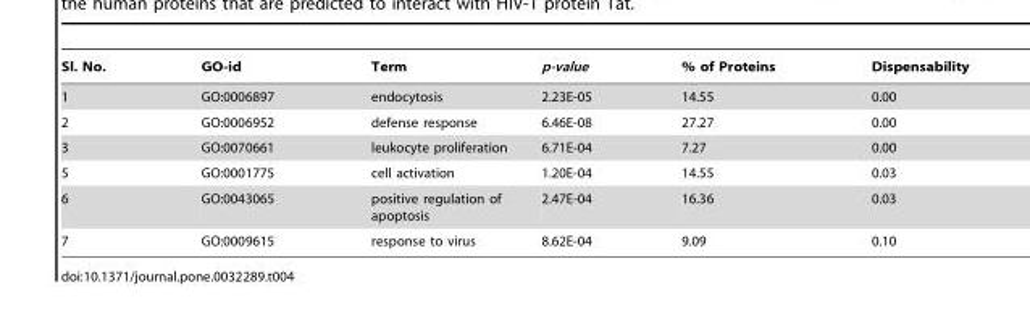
<table><thead><tr><td>Sl. No.</td><td>GO-id</td><td>Term</td><td>p-value</td><td>% of Proteins</td><td>Dispensability</td></tr></thead><tbody><tr><td>1</td><td>GO:0006897</td><td>endocytosis</td><td>2.23E-05</td><td>14.55</td><td>0.00</td></tr><tr><td>2</td><td>GO:0006952</td><td>defense response</td><td>6.46E-08</td><td>27.27</td><td>0.00</td></tr><tr><td>3</td><td>GO:0070661</td><td>leukocyte proliferation</td><td>6.71E-04</td><td>7.27</td><td>0.00</td></tr><tr><td>5</td><td>GO:0001775</td><td>cell activation</td><td>1.20E-04</td><td>14.55</td><td>0.03</td></tr><tr><td>6</td><td>GO:0043065</td><td>positive regulation of apoptosis</td><td>2.47E-04</td><td>16.36</td><td>0.03</td></tr><tr><td>7</td><td>GO:0009615</td><td>response to virus</td><td>8.62E-04</td><td>9.09</td><td>0.10</td></tr></tbody></table>